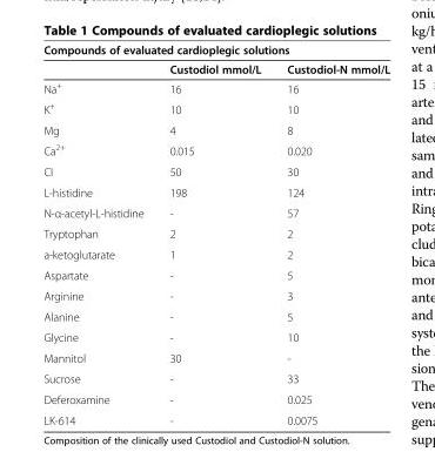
<table><thead><tr><td colspan="3">Compounds of evaluated cardioplegic solutions</td></tr><tr><td></td><td>Custodiol mmol/L</td><td>Custodiol-N mmol/L</td></tr></thead><tbody><tr><td>Na<sup>+</sup></td><td>16</td><td>16</td></tr><tr><td>K<sup>+</sup></td><td>10</td><td>10</td></tr><tr><td>Mg</td><td>4</td><td>8</td></tr><tr><td>Ca<sup>2+</sup></td><td>0.015</td><td>0.020</td></tr><tr><td>CI</td><td>50</td><td>30</td></tr><tr><td>L-histidine</td><td>198</td><td>124</td></tr><tr><td>N-α-acetyl-L-histidine</td><td>-</td><td>57</td></tr><tr><td>Tryptophan</td><td>2</td><td>2</td></tr><tr><td>a-ketoglutarate</td><td>1</td><td>2</td></tr><tr><td>Aspartate</td><td>-</td><td>5</td></tr><tr><td>Arginine</td><td>-</td><td>3</td></tr><tr><td>Alanine</td><td>-</td><td>5</td></tr><tr><td>Glycine</td><td>-</td><td>10</td></tr><tr><td>Mannitol</td><td>30</td><td>-</td></tr><tr><td>Sucrose</td><td>-</td><td>33</td></tr><tr><td>Deferoxamine</td><td>-</td><td>0.025</td></tr><tr><td>LK-614</td><td>-</td><td>0.0075</td></tr></tbody></table>